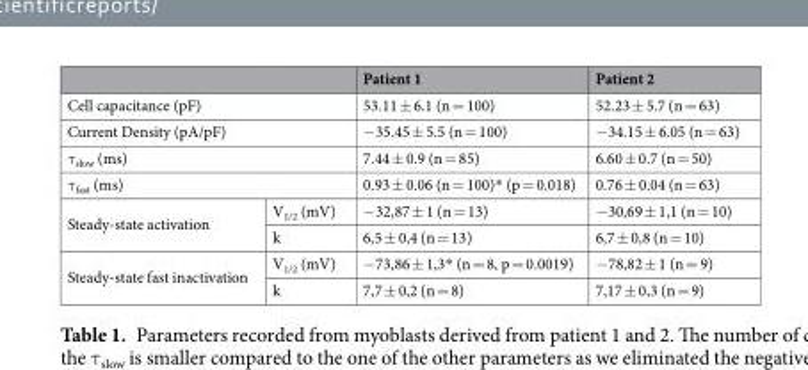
<table><thead><tr><td></td><td></td><td>Patient 1</td><td>Patient 2</td></tr></thead><tbody><tr><td colspan="2">Cell capacitance (pF)</td><td>53.11 ± 6.1 (n = 100)</td><td>52.23 ± 5.7 (n = 63)</td></tr><tr><td colspan="2">Current Density (pA/pF)</td><td>−35.45 ± 5.5 (n = 100)</td><td>−34.15 ± 6.05 (n = 63)</td></tr><tr><td colspan="2">τ<sub>slow</sub> (ms)</td><td>7.44 ± 0.9 (n = 85)</td><td>6.60 ± 0.7 (n = 50)</td></tr><tr><td colspan="2">τ<sub>fast</sub> (ms)</td><td>0.93 ± 0.06 (n = 100)* (p = 0.018)</td><td>0.76 ± 0.04 (n = 63)</td></tr><tr><td rowspan="2">Steady-state activation</td><td>V<sub>1/2</sub> (mV)</td><td>−32,87 ± 1 (n = 13)</td><td>−30,69 ± 1,1 (n = 10)</td></tr><tr><td>k</td><td>6,5 ± 0,4 (n = 13)</td><td>6,7 ± 0,8 (n = 10)</td></tr><tr><td rowspan="2">Steady-state fast inactivation</td><td>V<sub>1/2</sub> (mV)</td><td>−73,86 ± 1,3* (n = 8, p = 0.0019)</td><td>−78,82 ± 1 (n = 9)</td></tr><tr><td>k</td><td>7,7 ± 0,2 (n = 8)</td><td>7,17 ± 0,3 (n = 9)</td></tr></tbody></table>